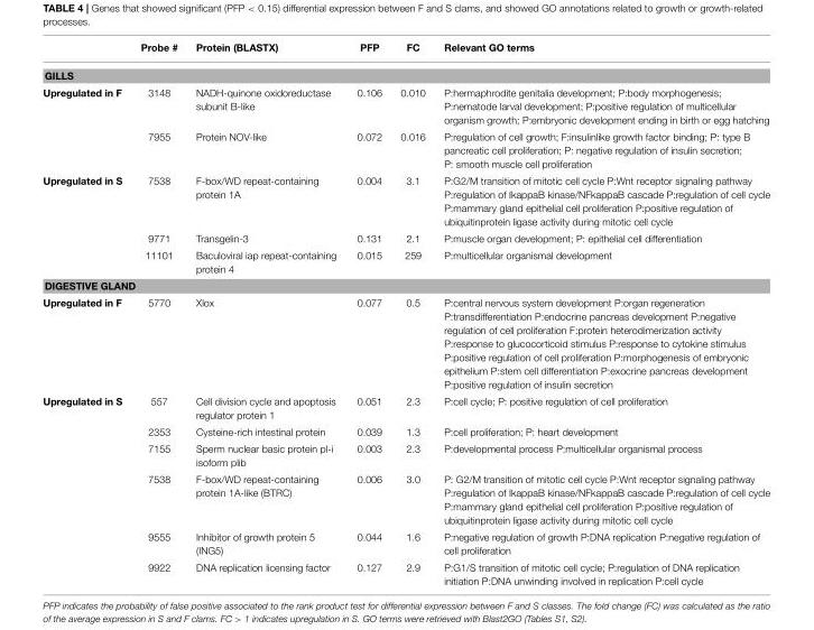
<table><thead><tr><td></td><td>Probe #</td><td>Protein (BLASTX)</td><td>PFP</td><td>FC</td><td>Relevant GO terms</td></tr></thead><tbody><tr><td colspan="6">GILLS</td></tr><tr><td rowspan="2">Upregulated in F</td><td>3148</td><td>NADH-quinone oxidoreductase subunit B-like</td><td>0.106</td><td>0.010</td><td>P:hermaphrodite genitalia development; P:body morphogenesis; P:nematode larval development; P:positive regulation of multicellular organism growth; P:embryonic development ending in birth or egg hatching</td></tr><tr><td>7955</td><td>Protein NOV-like</td><td>0.072</td><td>0.016</td><td>P:regulation of cell growth; F:insulinlike growth factor binding; P: type B pancreatic cell proliferation; P: negative regulation of insulin secretion; P: smooth muscle cell proliferation</td></tr><tr><td rowspan="3">Upregulated in S</td><td>7538</td><td>F-box/WD repeat-containing protein 1A</td><td>0.004</td><td>3.1</td><td>P:G2/M transition of mitotic cell cycle P:Wnt receptor signaling pathway P:regulation of IkappaB kinase/NFkappaB cascade P:regulation of cell cycle P:mammary gland epithelial cell proliferation P:positive regulation of ubiquitinprotein ligase activity during mitotic cell cycle</td></tr><tr><td>9771</td><td>Transgelin-3</td><td>0.131</td><td>2.1</td><td>P:muscle organ development; P: epithelial cell differentiation</td></tr><tr><td>11101</td><td>Baculoviral iap repeat-containing protein 4</td><td>0.015</td><td>259</td><td>P:multicellular organismal development</td></tr><tr><td colspan="6">DIGESTIVE GLAND</td></tr><tr><td>Upregulated in F</td><td>5770</td><td>Xlox</td><td>0.077</td><td>0.5</td><td>P:central nervous system development P:organ regeneration P:transdifferentiation P:endocrine pancreas development P:negative regulation of cell proliferation F:protein heterodimerization activity P:response to glucocorticoid stimulus P:response to cytokine stimulus P:positive regulation of cell proliferation P:morphogenesis of embryonic epithelium P:stem cell differentiation P:exocrine pancreas development P:positive regulation of insulin secretion</td></tr><tr><td rowspan="6">Upregulated in S</td><td>557</td><td>Cell division cycle and apoptosis regulator protein 1</td><td>0.051</td><td>2.3</td><td>P:cell cycle; P: positive regulation of cell proliferation</td></tr><tr><td>2353</td><td>Cysteine-rich intestinal protein</td><td>0.039</td><td>1.3</td><td>P:cell proliferation; P: heart development</td></tr><tr><td>7155</td><td>Sperm nuclear basic protein pl-i isoform plib</td><td>0.003</td><td>2.3</td><td>P:developmental process P:multicellular organismal process</td></tr><tr><td>7538</td><td>F-box/WD repeat-containing protein 1A-like (BTRC)</td><td>0.006</td><td>3.0</td><td>P: G2/M transition of mitotic cell cycle P:Wnt receptor signaling pathway P:regulation of IkappaB kinase/NFkappaB cascade P:regulation of cell cycle P:mammary gland epithelial cell proliferation P:positive regulation of ubiquitinprotein ligase activity during mitotic cell cycle</td></tr><tr><td>9555</td><td>Inhibitor of growth protein 5 (ING5)</td><td>0.044</td><td>1.6</td><td>P:negative regulation of growth P:DNA replication P:negative regulation of cell proliferation</td></tr><tr><td>9922</td><td>DNA replication licensing factor</td><td>0.127</td><td>2.9</td><td>P:G1/S transition of mitotic cell cycle; P:regulation of DNA replication initiation P:DNA unwinding involved in replication P:cell cycle</td></tr></tbody></table>